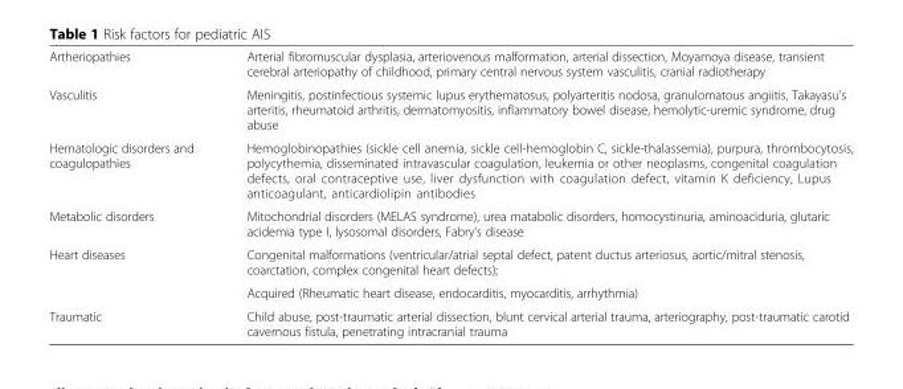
<table><tbody><tr><td>Artheriopathies</td><td>Arterial fibromuscular dysplasia, arteriovenous malformation, arterial dissection, Moyamoya disease, transient cerebral arteriopathy of childhood, primary central nervous system vasculitis, cranial radiotherapy</td></tr><tr><td>Vasculitis</td><td>Meningitis, postinfectious systemic lupus erythematosus, polyarteritis nodosa, granulomatous angiitis, Takayasu’s arteritis, rheumatoid arthritis, dermatomyositis, inflammatory bowel disease, hemolytic-uremic syndrome, drug abuse</td></tr><tr><td>Hematologic disorders and coagulopathies</td><td>Hemoglobinopathies (sickle cell anemia, sickle cell-hemoglobin C, sickle-thalassemia), purpura, thrombocytosis, polycythemia, disseminated intravascular coagulation, leukemia or other neoplasms, congenital coagulation defects, oral contraceptive use, liver dysfunction with coagulation defect, vitamin K deficiency, Lupus anticoagulant, anticardiolipin antibodies</td></tr><tr><td>Metabolic disorders</td><td>Mitochondrial disorders (MELAS syndrome), urea matabolic disorders, homocystinuria, aminoaciduria, glutaric acidemia type I, lysosomal disorders, Fabry’s disease</td></tr><tr><td rowspan="2">Heart diseases</td><td>Congenital malformations (ventricular/atrial septal defect, patent ductus arteriosus, aortic/mitral stenosis, coarctation, complex congenital heart defects);</td></tr><tr><td>Acquired (Rheumatic heart disease, endocarditis, myocarditis, arrhythmia)</td></tr><tr><td>Traumatic</td><td>Child abuse, post-traumatic arterial dissection, blunt cervical arterial trauma, arteriography, post-traumatic carotid cavernous fistula, penetrating intracranial trauma</td></tr></tbody></table>